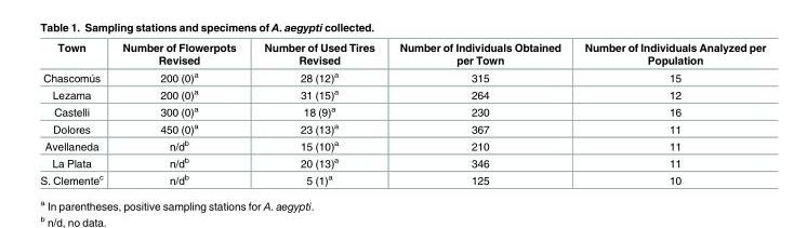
<table><thead><tr><td>Town</td><td>Number of Flowerpots Revised</td><td>Number of Used Tires Revised</td><td>Number of Individuals Obtained per Town</td><td>Number of Individuals Analyzed per Population</td></tr></thead><tbody><tr><td>Chascomús</td><td>200 (0)<sup>a</sup></td><td>28 (12)<sup>a</sup></td><td>315</td><td>15</td></tr><tr><td>Lezama</td><td>200 (0)<sup>a</sup></td><td>31 (15)<sup>a</sup></td><td>264</td><td>12</td></tr><tr><td>Castelli</td><td>300 (0)<sup>a</sup></td><td>18 (9)<sup>a</sup></td><td>230</td><td>16</td></tr><tr><td>Dolores</td><td>450 (0)<sup>a</sup></td><td>23 (13)<sup>a</sup></td><td>367</td><td>11</td></tr><tr><td>Avellaneda</td><td>n/d<sup>b</sup></td><td>15 (10)<sup>a</sup></td><td>210</td><td>11</td></tr><tr><td>La Plata</td><td>n/d<sup>b</sup></td><td>20 (13)<sup>a</sup></td><td>346</td><td>11</td></tr><tr><td>S. Clemente<sup>c</sup></td><td>n/d<sup>b</sup></td><td>5 (1)<sup>a</sup></td><td>125</td><td>10</td></tr></tbody></table>